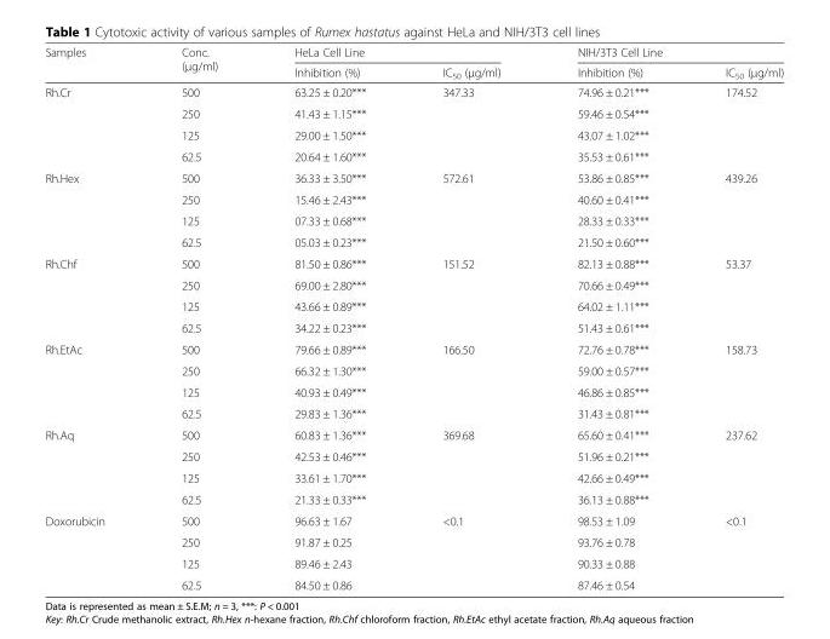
<table><thead><tr><td rowspan="2">Samples</td><td rowspan="2">Conc. (μg/ml)</td><td colspan="2">HeLa Cell Line</td><td colspan="2">NIH/3T3 Cell Line</td></tr><tr><td>Inhibition (%)</td><td>IC<sub>50</sub> (μg/ml)</td><td>Inhibition (%)</td><td>IC<sub>50</sub> (μg/ml)</td></tr></thead><tbody><tr><td rowspan="4">Rh.Cr</td><td>500</td><td>63.25 ± 0.20***</td><td rowspan="4">347.33</td><td>74.96 ± 0.21***</td><td rowspan="4">174.52</td></tr><tr><td>250</td><td>41.43 ± 1.15***</td><td>59.46 ± 0.54***</td></tr><tr><td>125</td><td>29.00 ± 1.50***</td><td>43.07 ± 1.02***</td></tr><tr><td>62.5</td><td>20.64 ± 1.60***</td><td>35.53 ± 0.61***</td></tr><tr><td rowspan="4">Rh.Hex</td><td>500</td><td>36.33 ± 3.50***</td><td rowspan="4">572.61</td><td>53.86 ± 0.85***</td><td rowspan="4">439.26</td></tr><tr><td>250</td><td>15.46 ± 2.43***</td><td>40.60 ± 0.41***</td></tr><tr><td>125</td><td>07.33 ± 0.68***</td><td>28.33 ± 0.33***</td></tr><tr><td>62.5</td><td>05.03 ± 0.23***</td><td>21.50 ± 0.60***</td></tr><tr><td rowspan="4">Rh.Chf</td><td>500</td><td>81.50 ± 0.86***</td><td rowspan="4">151.52</td><td>82.13 ± 0.88***</td><td rowspan="4">53.37</td></tr><tr><td>250</td><td>69.00 ± 2.80***</td><td>70.66 ± 0.49***</td></tr><tr><td>125</td><td>43.66 ± 0.89***</td><td>64.02 ± 1.11***</td></tr><tr><td>62.5</td><td>34.22 ± 0.23***</td><td>51.43 ± 0.61***</td></tr><tr><td rowspan="4">Rh.EtAc</td><td>500</td><td>79.66 ± 0.89***</td><td rowspan="4">166.50</td><td>72.76 ± 0.78***</td><td rowspan="4">158.73</td></tr><tr><td>250</td><td>66.32 ± 1.30***</td><td>59.00 ± 0.57***</td></tr><tr><td>125</td><td>40.93 ± 0.49***</td><td>46.86 ± 0.85***</td></tr><tr><td>62.5</td><td>29.83 ± 1.36***</td><td>31.43 ± 0.81***</td></tr><tr><td rowspan="4">Rh.Aq</td><td>500</td><td>60.83 ± 1.36***</td><td rowspan="4">369.68</td><td>65.60 ± 0.41***</td><td rowspan="4">237.62</td></tr><tr><td>250</td><td>42.53 ± 0.46***</td><td>51.96 ± 0.21***</td></tr><tr><td>125</td><td>33.61 ± 1.70***</td><td>42.66 ± 0.49***</td></tr><tr><td>62.5</td><td>21.33 ± 0.33***</td><td>36.13 ± 0.88***</td></tr><tr><td rowspan="4">Doxorubicin</td><td>500</td><td>96.63 ± 1.67</td><td rowspan="4">&lt;0.1</td><td>98.53 ± 1.09</td><td rowspan="4">&lt;0.1</td></tr><tr><td>250</td><td>91.87 ± 0.25</td><td>93.76 ± 0.78</td></tr><tr><td>125</td><td>89.46 ± 2.43</td><td>90.33 ± 0.88</td></tr><tr><td>62.5</td><td>84.50 ± 0.86</td><td>87.46 ± 0.54</td></tr></tbody></table>